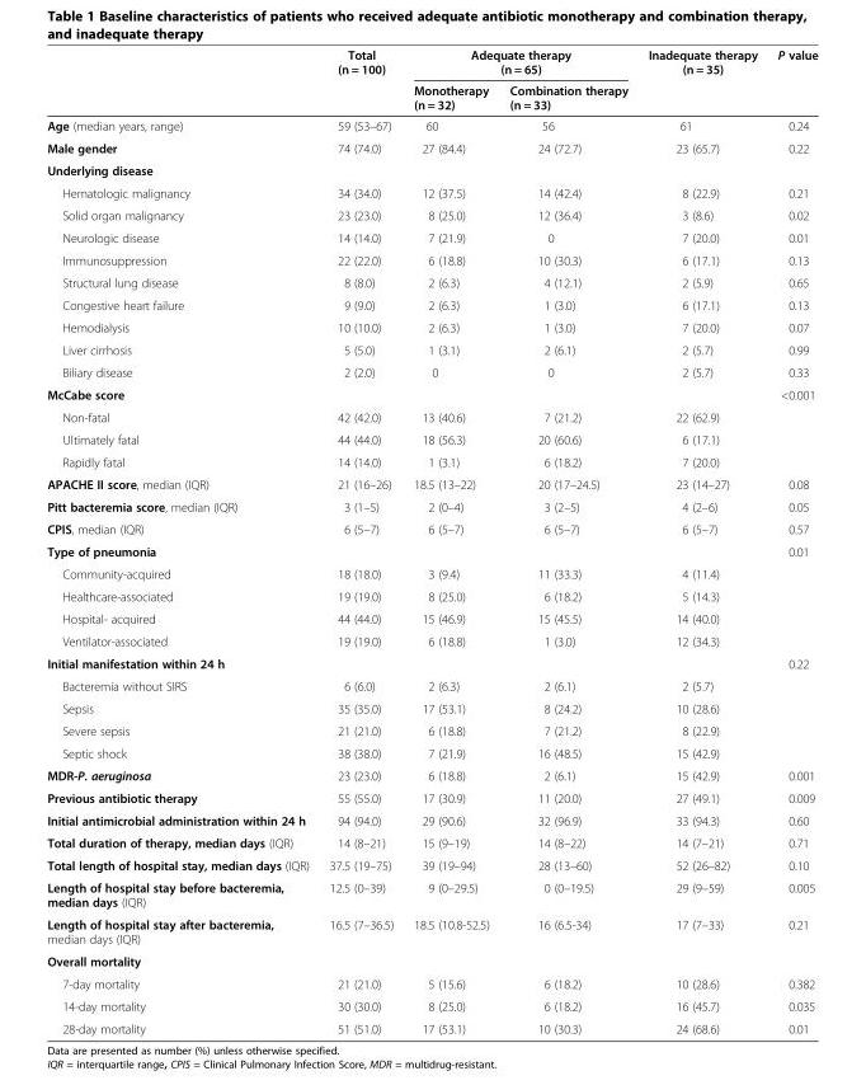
<table><thead><tr><td rowspan="2"></td><td rowspan="2">Total (n = 100)</td><td colspan="2">Adequate therapy (n = 65)</td><td rowspan="2">Inadequate therapy (n = 35)</td><td rowspan="2">P value</td></tr><tr><td>Monotherapy (n = 32)</td><td>Combination therapy (n = 33)</td></tr></thead><tbody><tr><td>Age (median years, range)</td><td>59 (53–67)</td><td>60</td><td>56</td><td>61</td><td>0.24</td></tr><tr><td>Male gender</td><td>74 (74.0)</td><td>27 (84.4)</td><td>24 (72.7)</td><td>23 (65.7)</td><td>0.22</td></tr><tr><td colspan="6">Underlying disease</td></tr><tr><td>Hematologic malignancy</td><td>34 (34.0)</td><td>12 (37.5)</td><td>14 (42.4)</td><td>8 (22.9)</td><td>0.21</td></tr><tr><td>Solid organ malignancy</td><td>23 (23.0)</td><td>8 (25.0)</td><td>12 (36.4)</td><td>3 (8.6)</td><td>0.02</td></tr><tr><td>Neurologic disease</td><td>14 (14.0)</td><td>7 (21.9)</td><td>0</td><td>7 (20.0)</td><td>0.01</td></tr><tr><td>Immunosuppression</td><td>22 (22.0)</td><td>6 (18.8)</td><td>10 (30.3)</td><td>6 (17.1)</td><td>0.13</td></tr><tr><td>Structural lung disease</td><td>8 (8.0)</td><td>2 (6.3)</td><td>4 (12.1)</td><td>2 (5.9)</td><td>0.65</td></tr><tr><td>Congestive heart failure</td><td>9 (9.0)</td><td>2 (6.3)</td><td>1 (3.0)</td><td>6 (17.1)</td><td>0.13</td></tr><tr><td>Hemodialysis</td><td>10 (10.0)</td><td>2 (6.3)</td><td>1 (3.0)</td><td>7 (20.0)</td><td>0.07</td></tr><tr><td>Liver cirrhosis</td><td>5 (5.0)</td><td>1 (3.1)</td><td>2 (6.1)</td><td>2 (5.7)</td><td>0.99</td></tr><tr><td>Biliary disease</td><td>2 (2.0)</td><td>0</td><td>0</td><td>2 (5.7)</td><td>0.33</td></tr><tr><td>McCabe score</td><td></td><td></td><td></td><td></td><td>&lt;0.001</td></tr><tr><td>Non-fatal</td><td>42 (42.0)</td><td>13 (40.6)</td><td>7 (21.2)</td><td>22 (62.9)</td><td></td></tr><tr><td>Ultimately fatal</td><td>44 (44.0)</td><td>18 (56.3)</td><td>20 (60.6)</td><td>6 (17.1)</td><td></td></tr><tr><td>Rapidly fatal</td><td>14 (14.0)</td><td>1 (3.1)</td><td>6 (18.2)</td><td>7 (20.0)</td><td></td></tr><tr><td>APACHE II score, median (IQR)</td><td>21 (16–26)</td><td>18.5 (13–22)</td><td>20 (17–24.5)</td><td>23 (14–27)</td><td>0.08</td></tr><tr><td>Pitt bacteremia score, median (IQR)</td><td>3 (1–5)</td><td>2 (0–4)</td><td>3 (2–5)</td><td>4 (2–6)</td><td>0.05</td></tr><tr><td>CPIS, median (IQR)</td><td>6 (5–7)</td><td>6 (5–7)</td><td>6 (5–7)</td><td>6 (5–7)</td><td>0.57</td></tr><tr><td>Type of pneumonia</td><td></td><td></td><td></td><td></td><td>0.01</td></tr><tr><td>Community-acquired</td><td>18 (18.0)</td><td>3 (9.4)</td><td>11 (33.3)</td><td>4 (11.4)</td><td></td></tr><tr><td>Healthcare-associated</td><td>19 (19.0)</td><td>8 (25.0)</td><td>6 (18.2)</td><td>5 (14.3)</td><td></td></tr><tr><td>Hospital- acquired</td><td>44 (44.0)</td><td>15 (46.9)</td><td>15 (45.5)</td><td>14 (40.0)</td><td></td></tr><tr><td>Ventilator-associated</td><td>19 (19.0)</td><td>6 (18.8)</td><td>1 (3.0)</td><td>12 (34.3)</td><td></td></tr><tr><td>Initial manifestation within 24 h</td><td></td><td></td><td></td><td></td><td>0.22</td></tr><tr><td>Bacteremia without SIRS</td><td>6 (6.0)</td><td>2 (6.3)</td><td>2 (6.1)</td><td>2 (5.7)</td><td></td></tr><tr><td>Sepsis</td><td>35 (35.0)</td><td>17 (53.1)</td><td>8 (24.2)</td><td>10 (28.6)</td><td></td></tr><tr><td>Severe sepsis</td><td>21 (21.0)</td><td>6 (18.8)</td><td>7 (21.2)</td><td>8 (22.9)</td><td></td></tr><tr><td>Septic shock</td><td>38 (38.0)</td><td>7 (21.9)</td><td>16 (48.5)</td><td>15 (42.9)</td><td></td></tr><tr><td>MDR-P. aeruginosa</td><td>23 (23.0)</td><td>6 (18.8)</td><td>2 (6.1)</td><td>15 (42.9)</td><td>0.001</td></tr><tr><td>Previous antibiotic therapy</td><td>55 (55.0)</td><td>17 (30.9)</td><td>11 (20.0)</td><td>27 (49.1)</td><td>0.009</td></tr><tr><td>Initial antimicrobial administration within 24 h</td><td>94 (94.0)</td><td>29 (90.6)</td><td>32 (96.9)</td><td>33 (94.3)</td><td>0.60</td></tr><tr><td>Total duration of therapy, median days (IQR)</td><td>14 (8–21)</td><td>15 (9–19)</td><td>14 (8–22)</td><td>14 (7–21)</td><td>0.71</td></tr><tr><td>Total length of hospital stay, median days (IQR)</td><td>37.5 (19–75)</td><td>39 (19–94)</td><td>28 (13–60)</td><td>52 (26–82)</td><td>0.10</td></tr><tr><td>Length of hospital stay before bacteremia, median days (IQR)</td><td>12.5 (0–39)</td><td>9 (0–29.5)</td><td>0 (0–19.5)</td><td>29 (9–59)</td><td>0.005</td></tr><tr><td>Length of hospital stay after bacteremia, median days (IQR)</td><td>16.5 (7–36.5)</td><td>18.5 (10.8-52.5)</td><td>16 (6.5-34)</td><td>17 (7–33)</td><td>0.21</td></tr><tr><td colspan="6">Overall mortality</td></tr><tr><td>7-day mortality</td><td>21 (21.0)</td><td>5 (15.6)</td><td>6 (18.2)</td><td>10 (28.6)</td><td>0.382</td></tr><tr><td>14-day mortality</td><td>30 (30.0)</td><td>8 (25.0)</td><td>6 (18.2)</td><td>16 (45.7)</td><td>0.035</td></tr><tr><td>28-day mortality</td><td>51 (51.0)</td><td>17 (53.1)</td><td>10 (30.3)</td><td>24 (68.6)</td><td>0.01</td></tr></tbody></table>